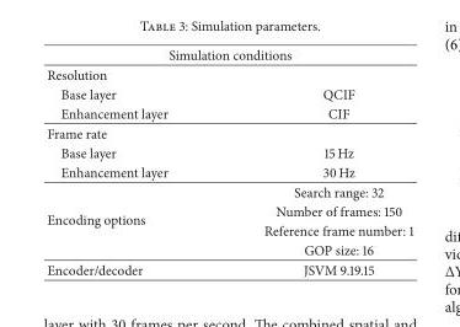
<table><thead><tr><td colspan="2">Simulation conditions</td></tr><tr><td>Resolution</td><td></td></tr></thead><tbody><tr><td>Base layer</td><td>QCIF</td></tr><tr><td>Enhancement layer</td><td>CIF</td></tr><tr><td colspan="2">Frame rate</td></tr><tr><td>Base layer</td><td>15 Hz</td></tr><tr><td>Enhancement layer</td><td>30 Hz</td></tr><tr><td rowspan="4">Encoding options</td><td>Search range: 32</td></tr><tr><td>Number of frames: 150</td></tr><tr><td>Reference frame number: 1</td></tr><tr><td>GOP size: 16</td></tr><tr><td>Encoder/decoder</td><td>JSVM 9.19.15</td></tr></tbody></table>